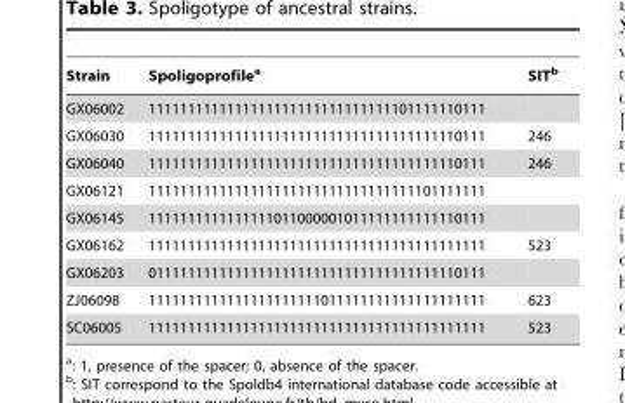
<table><thead><tr><td>Strain</td><td>Spoligoprofile<sup>a</sup></td><td>SIT<sup>b</sup></td></tr></thead><tbody><tr><td>GX06002</td><td>1111111111111111111111111111111101111110111</td><td></td></tr><tr><td>GX06030</td><td>1111111111111111111111111111111111111110111</td><td>246</td></tr><tr><td>GX06040</td><td>1111111111111111111111111111111111111110111</td><td>246</td></tr><tr><td>GX06121</td><td>1111111111111111111111111111111111101111111</td><td></td></tr><tr><td>GX06145</td><td>1111111111111111011000001011111111111110111</td><td></td></tr><tr><td>GX06162</td><td>1111111111111111111111111111111111111111111</td><td>523</td></tr><tr><td>GX06203</td><td>0111111111111111111111111111111111111110111</td><td></td></tr><tr><td>ZJ06098</td><td>1111111111111111111111011111111111111111111</td><td>623</td></tr><tr><td>SC06005</td><td>1111111111111111111111111111111111111111111</td><td>523</td></tr></tbody></table>